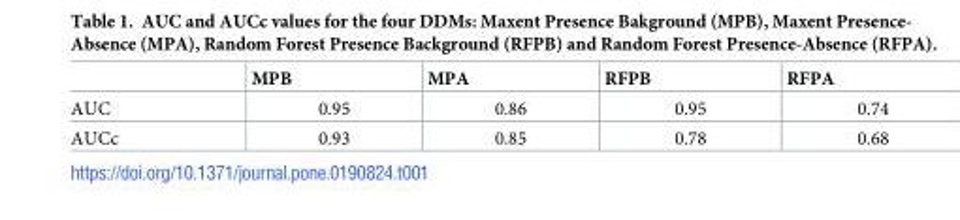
<table><thead><tr><td></td><td>MPB</td><td>MPA</td><td>RFPB</td><td>RFPA</td></tr></thead><tbody><tr><td>AUC</td><td>0.95</td><td>0.86</td><td>0.95</td><td>0.74</td></tr><tr><td>AUCc</td><td>0.93</td><td>0.85</td><td>0.78</td><td>0.68</td></tr></tbody></table>